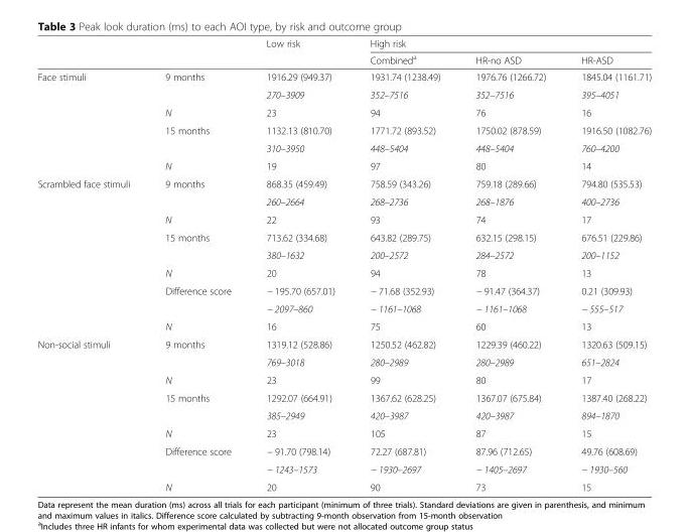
<table><thead><tr><td rowspan="2"></td><td rowspan="2"></td><td rowspan="2">Low risk</td><td colspan="3">High risk</td></tr><tr><td>Combined<sup>a</sup></td><td>HR-no ASD</td><td>HR-ASD</td></tr></thead><tbody><tr><td rowspan="6">Face stimuli</td><td>9 months</td><td>1916.29 (949.37)</td><td>1931.74 (1238.49)</td><td>1976.76 (1266.72)</td><td>1845.04 (1161.71)</td></tr><tr><td></td><td>270–3909</td><td>352–7516</td><td>352–7516</td><td>395–4051</td></tr><tr><td>N</td><td>23</td><td>94</td><td>76</td><td>16</td></tr><tr><td>15 months</td><td>1132.13 (810.70)</td><td>1771.72 (893.52)</td><td>1750.02 (878.59)</td><td>1916.50 (1082.76)</td></tr><tr><td></td><td>310–3950</td><td>448–5404</td><td>448–5404</td><td>760–4200</td></tr><tr><td>N</td><td>19</td><td>97</td><td>80</td><td>14</td></tr><tr><td rowspan="9">Scrambled face stimuli</td><td>9 months</td><td>868.35 (459.49)</td><td>758.59 (343.26)</td><td>759.18 (289.66)</td><td>794.80 (535.53)</td></tr><tr><td></td><td>260–2664</td><td>268–2736</td><td>268–1876</td><td>400–2736</td></tr><tr><td>N</td><td>22</td><td>93</td><td>74</td><td>17</td></tr><tr><td>15 months</td><td>713.62 (334.68)</td><td>643.82 (289.75)</td><td>632.15 (298.15)</td><td>676.51 (229.86)</td></tr><tr><td></td><td>380–1632</td><td>200–2572</td><td>284–2572</td><td>200–1152</td></tr><tr><td>N</td><td>20</td><td>94</td><td>78</td><td>13</td></tr><tr><td>Difference score</td><td>− 195.70 (657.01)</td><td>− 71.68 (352.93)</td><td>− 91.47 (364.37)</td><td>0.21 (309.93)</td></tr><tr><td></td><td>− 2097–860</td><td>− 1161–1068</td><td>− 1161–1068</td><td>− 555–517</td></tr><tr><td>N</td><td>16</td><td>75</td><td>60</td><td>13</td></tr><tr><td rowspan="9">Non-social stimuli</td><td>9 months</td><td>1319.12 (528.86)</td><td>1250.52 (462.82)</td><td>1229.39 (460.22)</td><td>1320.63 (509.15)</td></tr><tr><td></td><td>769–3018</td><td>280–2989</td><td>280–2989</td><td>651–2824</td></tr><tr><td>N</td><td>23</td><td>99</td><td>80</td><td>17</td></tr><tr><td>15 months</td><td>1292.07 (664.91)</td><td>1367.62 (628.25)</td><td>1367.07 (675.84)</td><td>1387.40 (268.22)</td></tr><tr><td></td><td>385–2949</td><td>420–3987</td><td>420–3987</td><td>894–1870</td></tr><tr><td>N</td><td>23</td><td>105</td><td>87</td><td>15</td></tr><tr><td>Difference score</td><td>− 91.70 (798.14)</td><td>72.27 (687.81)</td><td>87.96 (712.65)</td><td>49.76 (608.69)</td></tr><tr><td></td><td>− 1243–1573</td><td>− 1930–2697</td><td>− 1405–2697</td><td>− 1930–560</td></tr><tr><td>N</td><td>20</td><td>90</td><td>73</td><td>15</td></tr></tbody></table>